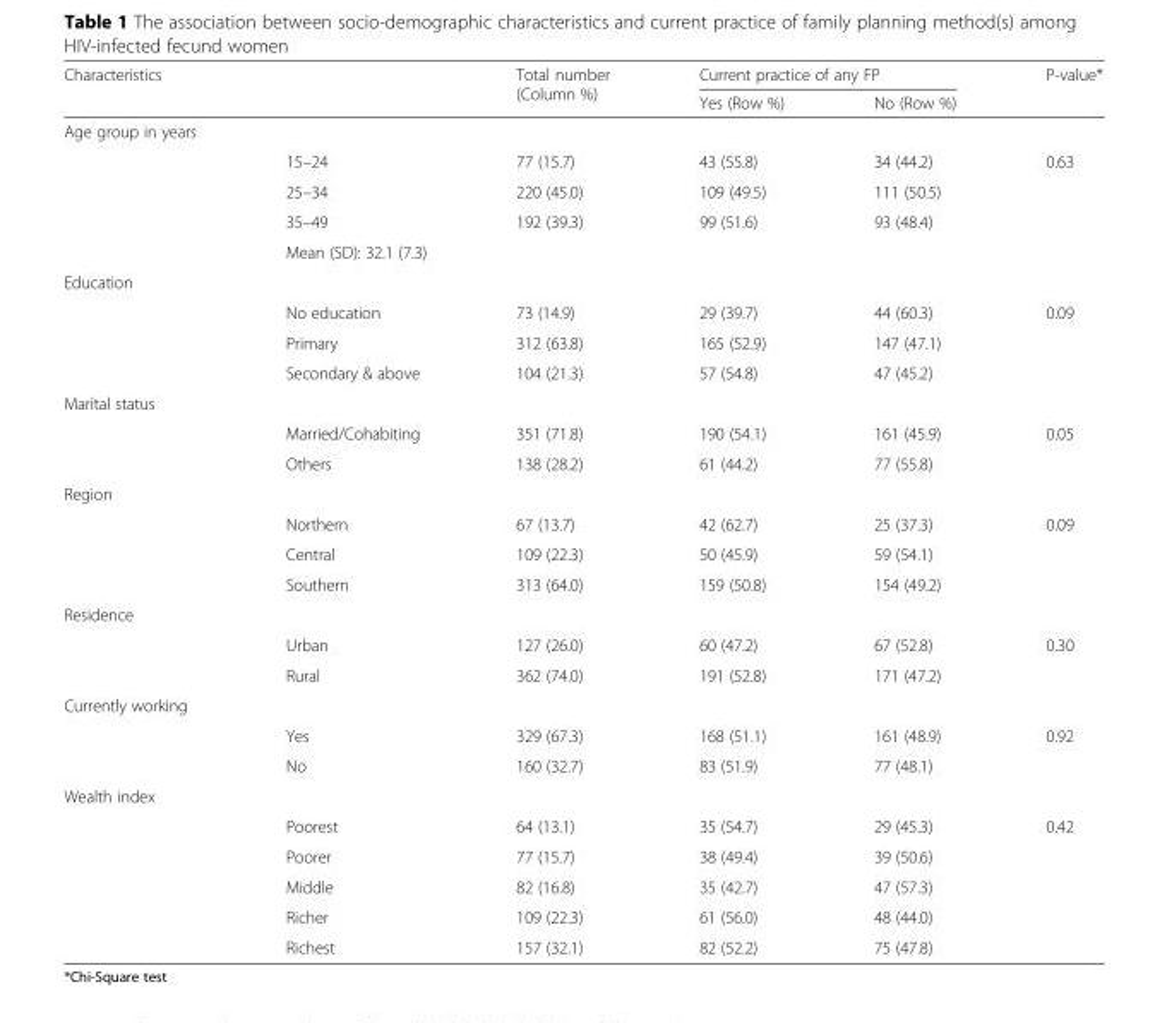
<table><thead><tr><td colspan="2">Characteristics</td><td rowspan="2">Total number (Column %)</td><td colspan="2">Current practice of any FP</td><td rowspan="2">P-value*</td></tr><tr><td></td><td></td><td>Yes (Row %)</td><td>No (Row %)</td></tr></thead><tbody><tr><td colspan="6">Age group in years</td></tr><tr><td></td><td>15–24</td><td>77 (15.7)</td><td>43 (55.8)</td><td>34 (44.2)</td><td>0.63</td></tr><tr><td></td><td>25–34</td><td>220 (45.0)</td><td>109 (49.5)</td><td>111 (50.5)</td><td></td></tr><tr><td></td><td>35–49</td><td>192 (39.3)</td><td>99 (51.6)</td><td>93 (48.4)</td><td></td></tr><tr><td></td><td>Mean (SD): 32.1 (7.3)</td><td></td><td></td><td></td><td></td></tr><tr><td colspan="6">Education</td></tr><tr><td></td><td>No education</td><td>73 (14.9)</td><td>29 (39.7)</td><td>44 (60.3)</td><td>0.09</td></tr><tr><td></td><td>Primary</td><td>312 (63.8)</td><td>165 (52.9)</td><td>147 (47.1)</td><td></td></tr><tr><td></td><td>Secondary &amp; above</td><td>104 (21.3)</td><td>57 (54.8)</td><td>47 (45.2)</td><td></td></tr><tr><td colspan="6">Marital status</td></tr><tr><td></td><td>Married/Cohabiting</td><td>351 (71.8)</td><td>190 (54.1)</td><td>161 (45.9)</td><td>0.05</td></tr><tr><td></td><td>Others</td><td>138 (28.2)</td><td>61 (44.2)</td><td>77 (55.8)</td><td></td></tr><tr><td colspan="6">Region</td></tr><tr><td></td><td>Northern</td><td>67 (13.7)</td><td>42 (62.7)</td><td>25 (37.3)</td><td>0.09</td></tr><tr><td></td><td>Central</td><td>109 (22.3)</td><td>50 (45.9)</td><td>59 (54.1)</td><td></td></tr><tr><td></td><td>Southern</td><td>313 (64.0)</td><td>159 (50.8)</td><td>154 (49.2)</td><td></td></tr><tr><td colspan="6">Residence</td></tr><tr><td></td><td>Urban</td><td>127 (26.0)</td><td>60 (47.2)</td><td>67 (52.8)</td><td>0.30</td></tr><tr><td></td><td>Rural</td><td>362 (74.0)</td><td>191 (52.8)</td><td>171 (47.2)</td><td></td></tr><tr><td colspan="6">Currently working</td></tr><tr><td></td><td>Yes</td><td>329 (67.3)</td><td>168 (51.1)</td><td>161 (48.9)</td><td>0.92</td></tr><tr><td></td><td>No</td><td>160 (32.7)</td><td>83 (51.9)</td><td>77 (48.1)</td><td></td></tr><tr><td colspan="6">Wealth index</td></tr><tr><td></td><td>Poorest</td><td>64 (13.1)</td><td>35 (54.7)</td><td>29 (45.3)</td><td>0.42</td></tr><tr><td></td><td>Poorer</td><td>77 (15.7)</td><td>38 (49.4)</td><td>39 (50.6)</td><td></td></tr><tr><td></td><td>Middle</td><td>82 (16.8)</td><td>35 (42.7)</td><td>47 (57.3)</td><td></td></tr><tr><td></td><td>Richer</td><td>109 (22.3)</td><td>61 (56.0)</td><td>48 (44.0)</td><td></td></tr><tr><td></td><td>Richest</td><td>157 (32.1)</td><td>82 (52.2)</td><td>75 (47.8)</td><td></td></tr></tbody></table>